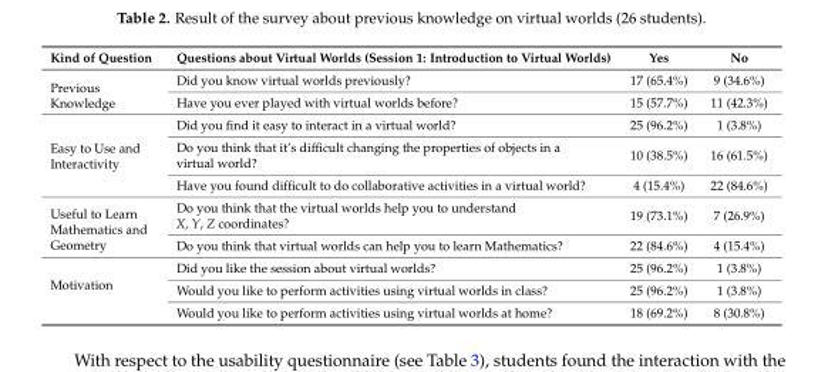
<table><thead><tr><td>Kind of Question</td><td>Questions about Virtual Worlds (Session 1: Introduction to Virtual Worlds)</td><td>Yes</td><td>No</td></tr></thead><tbody><tr><td rowspan="2">Previous Knowledge</td><td>Did you know virtual worlds previously?</td><td>17 (65.4%)</td><td>9 (34.6%)</td></tr><tr><td>Have you ever played with virtual worlds before?</td><td>15 (57.7%)</td><td>11 (42.3%)</td></tr><tr><td rowspan="3">Easy to Use and Interactivity</td><td>Did you find it easy to interact in a virtual world?</td><td>25 (96.2%)</td><td>1 (3.8%)</td></tr><tr><td>Do you think that it’s difficult changing the properties of objects in a virtual world?</td><td>10 (38.5%)</td><td>16 (61.5%)</td></tr><tr><td>Have you found difficult to do collaborative activities in a virtual world?</td><td>4 (15.4%)</td><td>22 (84.6%)</td></tr><tr><td rowspan="2">Useful to Learn Mathematics and Geometry</td><td>Do you think that the virtual worlds help you to understand X, Y, Z coordinates?</td><td>19 (73.1%)</td><td>7 (26.9%)</td></tr><tr><td>Do you think that virtual worlds can help you to learn Mathematics?</td><td>22 (84.6%)</td><td>4 (15.4%)</td></tr><tr><td rowspan="3">Motivation</td><td>Did you like the session about virtual worlds?</td><td>25 (96.2%)</td><td>1 (3.8%)</td></tr><tr><td>Would you like to perform activities using virtual worlds in class?</td><td>25 (96.2%)</td><td>1 (3.8%)</td></tr><tr><td>Would you like to perform activities using virtual worlds at home?</td><td>18 (69.2%)</td><td>8 (30.8%)</td></tr></tbody></table>